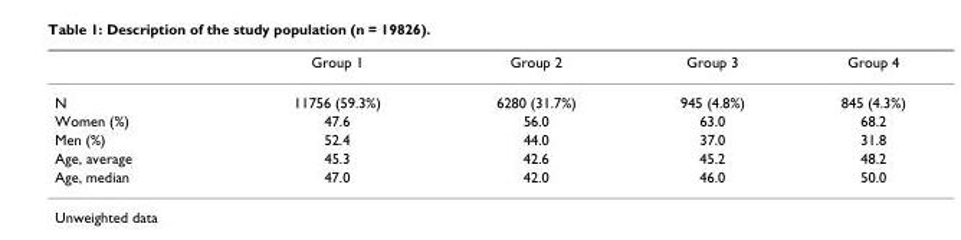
<table><thead><tr><td></td><td>Group 1</td><td>Group 2</td><td>Group 3</td><td>Group 4</td></tr></thead><tbody><tr><td>N</td><td>11756 (59.3%)</td><td>6280 (31.7%)</td><td>945 (4.8%)</td><td>845 (4.3%)</td></tr><tr><td>Women (%)</td><td>47.6</td><td>56.0</td><td>63.0</td><td>68.2</td></tr><tr><td>Men (%)</td><td>52.4</td><td>44.0</td><td>37.0</td><td>31.8</td></tr><tr><td>Age, average</td><td>45.3</td><td>42.6</td><td>45.2</td><td>48.2</td></tr><tr><td>Age, median</td><td>47.0</td><td>42.0</td><td>46.0</td><td>50.0</td></tr></tbody></table>